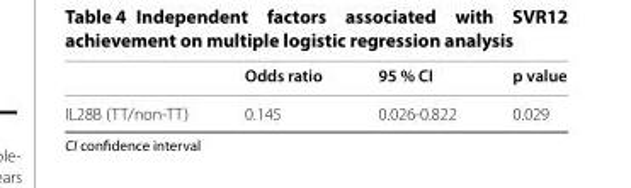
<table><thead><tr><td></td><td>Odds ratio</td><td>95 % CI</td><td>p value</td></tr></thead><tbody><tr><td>IL28B (TT/non-TT)</td><td>0.145</td><td>0.026-0.822</td><td>0.029</td></tr></tbody></table>